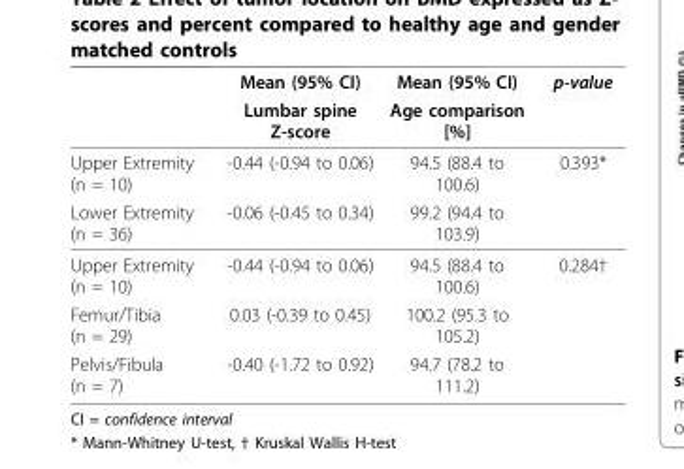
<table><thead><tr><td rowspan="2"></td><td rowspan="2">Mean (95% CI) Lumbar spine Z-score</td><td rowspan="2">Mean (95% CI) Age comparison [%]</td><td rowspan="2">p-value</td></tr><tr></tr></thead><tbody><tr><td>Upper Extremity (n = 10)</td><td>-0.44 (-0.94 to 0.06)</td><td>94.5 (88.4 to 100.6)</td><td>0.393*</td></tr><tr><td>Lower Extremity (n = 36)</td><td>-0.06 (-0.45 to 0.34)</td><td>99.2 (94.4 to 103.9)</td><td></td></tr><tr><td>Upper Extremity (n = 10)</td><td>-0.44 (-0.94 to 0.06)</td><td>94.5 (88.4 to 100.6)</td><td>0.284†</td></tr><tr><td>Femur/Tibia (n = 29)</td><td>0.03 (-0.39 to 0.45)</td><td>100.2 (95.3 to 105.2)</td><td></td></tr><tr><td>Pelvis/Fibula (n = 7)</td><td>-0.40 (-1.72 to 0.92)</td><td>94.7 (78.2 to 111.2)</td><td></td></tr></tbody></table>